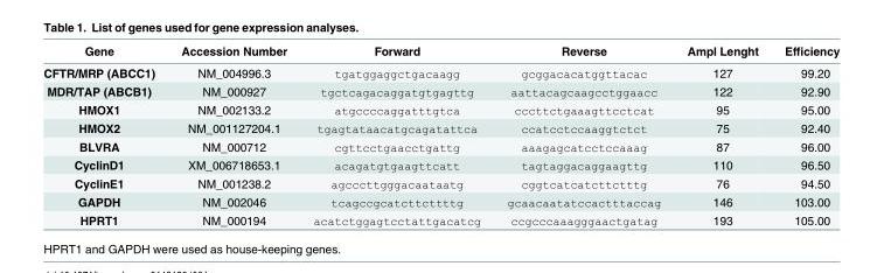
<table><thead><tr><td>Gene</td><td>Accession Number</td><td>Forward</td><td>Reverse</td><td>Ampl Lenght</td><td>Efficiency</td></tr></thead><tbody><tr><td>CFTR/MRP (ABCC1)</td><td>NM_004996.3</td><td>tgatggaggctgacaagg</td><td>gcggacacatggttacac</td><td>127</td><td>99.20</td></tr><tr><td>MDR/TAP (ABCB1)</td><td>NM_000927</td><td>tgctcagacaggatgtgagttg</td><td>aattacagcaagcctggaacc</td><td>122</td><td>92.90</td></tr><tr><td>HMOX1</td><td>NM_002133.2</td><td>atgccccaggatttgtca</td><td>cccttctgaaagttcctcat</td><td>95</td><td>95.00</td></tr><tr><td>HMOX2</td><td>NM_001127204.1</td><td>tgagtataacatgcagatattca</td><td>ccatcctccaaggtctct</td><td>75</td><td>92.40</td></tr><tr><td>BLVRA</td><td>NM_000712</td><td>cgttcctgaacctgattg</td><td>aaagagcatcctccaaag</td><td>87</td><td>96.00</td></tr><tr><td>CyclinD1</td><td>XM_006718653.1</td><td>acagatgtgaagttcatt</td><td>tagtaggacaggaagttg</td><td>110</td><td>96.50</td></tr><tr><td>CyclinE1</td><td>NM_001238.2</td><td>agcccttgggacaataatg</td><td>cggtcatcatcttctttg</td><td>76</td><td>94.50</td></tr><tr><td>GAPDH</td><td>NM_002046</td><td>tcagccgcatcttcttttg</td><td>gcaacaatatccactttaccag</td><td>146</td><td>103.00</td></tr><tr><td>HPRT1</td><td>NM_000194</td><td>acatctggagtcctattgacatcg</td><td>ccgcccaaagggaactgatag</td><td>193</td><td>105.00</td></tr></tbody></table>